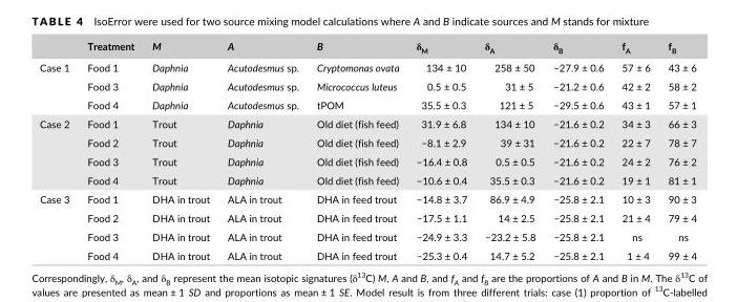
<table><thead><tr><td></td><td>Treatment</td><td>M</td><td>A</td><td>B</td><td>δ<sub>M</sub></td><td>δ<sub>A</sub></td><td>δ<sub>B</sub></td><td>f<sub>A</sub></td><td>f<sub>B</sub></td></tr></thead><tbody><tr><td rowspan="3">Case 1</td><td>Food 1</td><td>Daphnia</td><td>Acutodesmus sp.</td><td>Cryptomonas ovata</td><td>134 ± 10</td><td>258 ± 50</td><td>−27.9 ± 0.6</td><td>57 ± 6</td><td>43 ± 6</td></tr><tr><td>Food 3</td><td>Daphnia</td><td>Acutodesmus sp.</td><td>Micrococcus luteus</td><td>0.5 ± 0.5</td><td>31 ± 5</td><td>−21.2 ± 0.6</td><td>42 ± 2</td><td>58 ± 2</td></tr><tr><td>Food 4</td><td>Daphnia</td><td>Acutodesmus sp.</td><td>tPOM</td><td>35.5 ± 0.3</td><td>121 ± 5</td><td>−29.5 ± 0.6</td><td>43 ± 1</td><td>57 ± 1</td></tr><tr><td rowspan="4">Case 2</td><td>Food 1</td><td>Trout</td><td>Daphnia</td><td>Old diet (fish feed)</td><td>31.9 ± 6.8</td><td>134 ± 10</td><td>−21.6 ± 0.2</td><td>34 ± 3</td><td>66 ± 3</td></tr><tr><td>Food 2</td><td>Trout</td><td>Daphnia</td><td>Old diet (fish feed)</td><td>−8.1 ± 2.9</td><td>39 ± 31</td><td>−21.6 ± 0.2</td><td>22 ± 7</td><td>78 ± 7</td></tr><tr><td>Food 3</td><td>Trout</td><td>Daphnia</td><td>Old diet (fish feed)</td><td>−16.4 ± 0.8</td><td>0.5 ± 0.5</td><td>−21.6 ± 0.2</td><td>24 ± 2</td><td>76 ± 2</td></tr><tr><td>Food 4</td><td>Trout</td><td>Daphnia</td><td>Old diet (fish feed)</td><td>−10.6 ± 0.4</td><td>35.5 ± 0.3</td><td>−21.6 ± 0.2</td><td>19 ± 1</td><td>81 ± 1</td></tr><tr><td rowspan="4">Case 3</td><td>Food 1</td><td>DHA in trout</td><td>ALA in trout</td><td>DHA in feed trout</td><td>−14.8 ± 3.7</td><td>86.9 ± 4.9</td><td>−25.8 ± 2.1</td><td>10 ± 3</td><td>90 ± 3</td></tr><tr><td>Food 2</td><td>DHA in trout</td><td>ALA in trout</td><td>DHA in feed trout</td><td>−17.5 ± 1.1</td><td>14 ± 2.5</td><td>−25.8 ± 2.1</td><td>21 ± 4</td><td>79 ± 4</td></tr><tr><td>Food 3</td><td>DHA in trout</td><td>ALA in trout</td><td>DHA in feed trout</td><td>−24.9 ± 3.3</td><td>−23.2 ± 5.8</td><td>−25.8 ± 2.1</td><td>ns</td><td>ns</td></tr><tr><td>Food 4</td><td>DHA in trout</td><td>ALA in trout</td><td>DHA in feed trout</td><td>−25.3 ± 0.4</td><td>14.7 ± 5.2</td><td>−25.8 ± 2.1</td><td>1 ± 4</td><td>99 ± 4</td></tr></tbody></table>